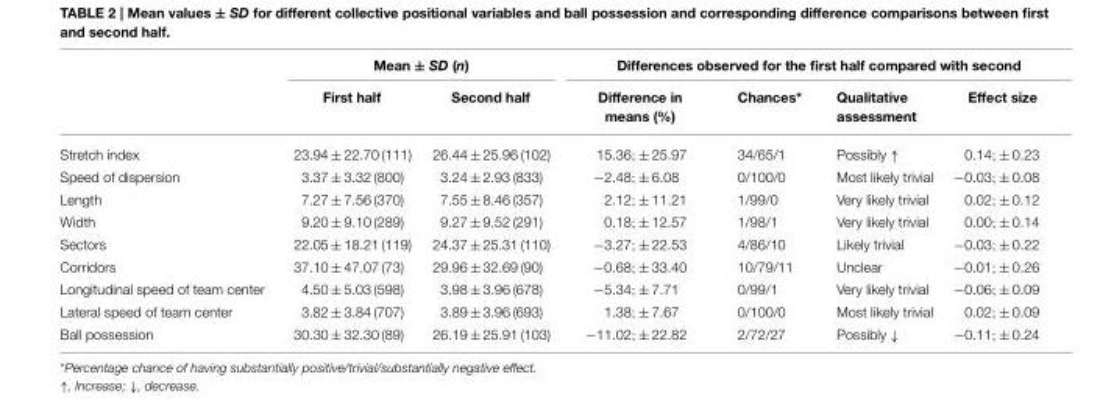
<table><thead><tr><td rowspan="2"></td><td colspan="2">Mean ± SD (n)</td><td colspan="4">Differences observed for the first half compared with second</td></tr><tr><td>First half</td><td>Second half</td><td>Difference in means (%)</td><td>Chances*</td><td>Qualitative assessment</td><td>Effect size</td></tr></thead><tbody><tr><td>Stretch index</td><td>23.94 ± 22.70 (111)</td><td>26.44 ± 25.96 (102)</td><td>15.36; ± 25.97</td><td>34/65/1</td><td>Possibly ↑</td><td>0.14; ± 0.23</td></tr><tr><td>Speed of dispersion</td><td>3.37 ± 3.32 (800)</td><td>3.24 ± 2.93 (833)</td><td>−2.48; ± 6.08</td><td>0/100/0</td><td>Most likely trivial</td><td>−0.03; ± 0.08</td></tr><tr><td>Length</td><td>7.27 ± 7.56 (370)</td><td>7.55 ± 8.46 (357)</td><td>2.12; ± 11.21</td><td>1/99/0</td><td>Very likely trivial</td><td>0.02; ± 0.12</td></tr><tr><td>Width</td><td>9.20 ± 9.10 (289)</td><td>9.27 ± 9.52 (291)</td><td>0.18; ± 12.57</td><td>1/98/1</td><td>Very likely trivial</td><td>0.00; ± 0.14</td></tr><tr><td>Sectors</td><td>22.05 ± 18.21 (119)</td><td>24.37 ± 25.31 (110)</td><td>−3.27; ± 22.53</td><td>4/86/10</td><td>Likely trivial</td><td>−0.03; ± 0.22</td></tr><tr><td>Corridors</td><td>37.10 ± 47.07 (73)</td><td>29.96 ± 32.69 (90)</td><td>−0.68; ± 33.40</td><td>10/79/11</td><td>Unclear</td><td>−0.01; ± 0.26</td></tr><tr><td>Longitudinal speed of team center</td><td>4.50 ± 5.03 (598)</td><td>3.98 ± 3.96 (678)</td><td>−5.34; ± 7.71</td><td>0/99/1</td><td>Very likely trivial</td><td>−0.06; ± 0.09</td></tr><tr><td>Lateral speed of team center</td><td>3.82 ± 3.84 (707)</td><td>3.89 ± 3.96 (693)</td><td>1.38; ± 7.67</td><td>0/100/0</td><td>Most likely trivial</td><td>0.02; ± 0.09</td></tr><tr><td>Ball possession</td><td>30.30 ± 32.30 (89)</td><td>26.19 ± 25.91 (103)</td><td>−11.02; ± 22.82</td><td>2/72/27</td><td>Possibly ↓</td><td>−0.11; ± 0.24</td></tr></tbody></table>